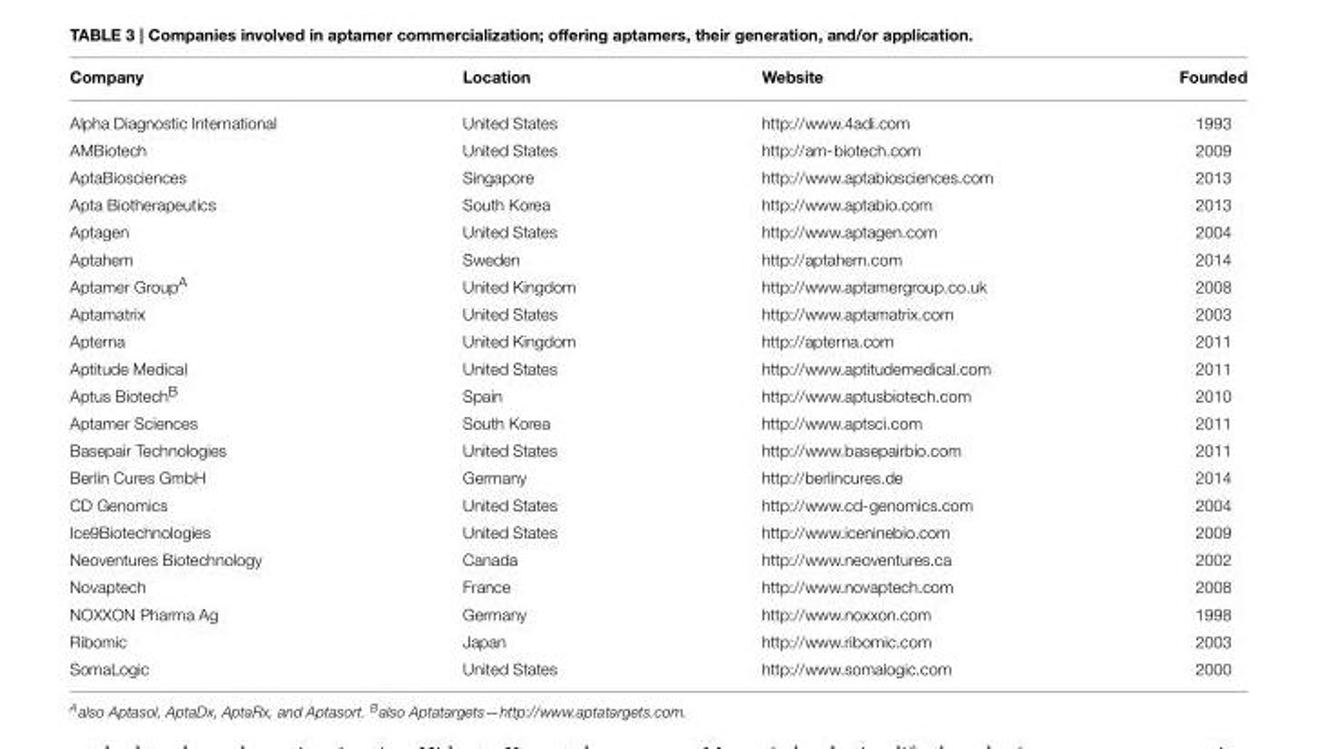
<table><thead><tr><td>Company</td><td>Location</td><td>Website</td><td>Founded</td></tr></thead><tbody><tr><td>Alpha Diagnostic International</td><td>United States</td><td>http://www.4adi.com</td><td>1993</td></tr><tr><td>AMBiotech</td><td>United States</td><td>http://am-biotech.com</td><td>2009</td></tr><tr><td>AptaBiosciences</td><td>Singapore</td><td>http://www.aptabiosciences.com</td><td>2013</td></tr><tr><td>Apta Biotherapeutics</td><td>South Korea</td><td>http://www.aptabio.com</td><td>2013</td></tr><tr><td>Aptagen</td><td>United States</td><td>http://www.aptagen.com</td><td>2004</td></tr><tr><td>Aptahem</td><td>Sweden</td><td>http://aptahem.com</td><td>2014</td></tr><tr><td>Aptamer Group<sup>A</sup></td><td>United Kingdom</td><td>http://www.aptamergroup.co.uk</td><td>2008</td></tr><tr><td>Aptamatrix</td><td>United States</td><td>http://www.aptamatrix.com</td><td>2003</td></tr><tr><td>Apterna</td><td>United Kingdom</td><td>http://apterna.com</td><td>2011</td></tr><tr><td>Aptitude Medical</td><td>United States</td><td>http://www.aptitudemedical.com</td><td>2011</td></tr><tr><td>Aptus Biotech<sup>B</sup></td><td>Spain</td><td>http://www.aptusbiotech.com</td><td>2010</td></tr><tr><td>Aptamer Sciences</td><td>South Korea</td><td>http://www.aptsci.com</td><td>2011</td></tr><tr><td>Basepair Technologies</td><td>United States</td><td>http://www.basepairbio.com</td><td>2011</td></tr><tr><td>Berlin Cures GmbH</td><td>Germany</td><td>http://berlincures.de</td><td>2014</td></tr><tr><td>CD Genomics</td><td>United States</td><td>http://www.cd-genomics.com</td><td>2004</td></tr><tr><td>Ice9Biotechnologies</td><td>United States</td><td>http://www.iceninebio.com</td><td>2009</td></tr><tr><td>Neoventures Biotechnology</td><td>Canada</td><td>http://www.neoventures.ca</td><td>2002</td></tr><tr><td>Novaptech</td><td>France</td><td>http://www.novaptech.com</td><td>2008</td></tr><tr><td>NOXXON Pharma Ag</td><td>Germany</td><td>http://www.noxxon.com</td><td>1998</td></tr><tr><td>Ribomic</td><td>Japan</td><td>http://www.ribomic.com</td><td>2003</td></tr><tr><td>SomaLogic</td><td>United States</td><td>http://www.somalogic.com</td><td>2000</td></tr></tbody></table>